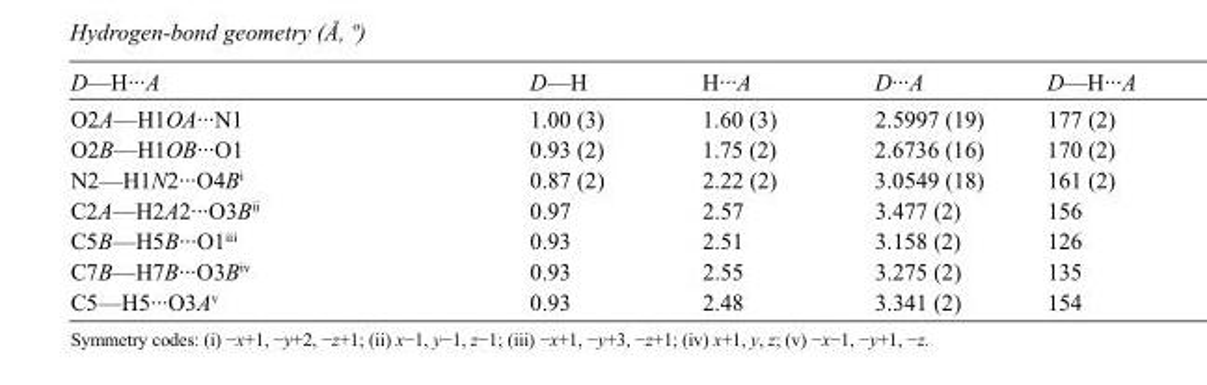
<table><tbody><tr><td>D—H···A</td><td>D—H</td><td>H···A</td><td>D···A</td><td>D—H···A</td></tr><tr><td>O2A—H1OA···N1</td><td>1.00 (3)</td><td>1.60 (3)</td><td>2.5997 (19)</td><td>177 (2)</td></tr><tr><td>O2B—H1OB···O1</td><td>0.93 (2)</td><td>1.75 (2)</td><td>2.6736 (16)</td><td>170 (2)</td></tr><tr><td>N2—H1N2···O4B<sup>i</sup></td><td>0.87 (2)</td><td>2.22 (2)</td><td>3.0549 (18)</td><td>161 (2)</td></tr><tr><td>C2A—H2A2···O3B<sup>ii</sup></td><td>0.97</td><td>2.57</td><td>3.477 (2)</td><td>156</td></tr><tr><td>C5B—H5B···O1<sup>iii</sup></td><td>0.93</td><td>2.51</td><td>3.158 (2)</td><td>126</td></tr><tr><td>C7B—H7B···O3B<sup>iv</sup></td><td>0.93</td><td>2.55</td><td>3.275 (2)</td><td>135</td></tr><tr><td>C5—H5···O3A<sup>v</sup></td><td>0.93</td><td>2.48</td><td>3.341 (2)</td><td>154</td></tr></tbody></table>